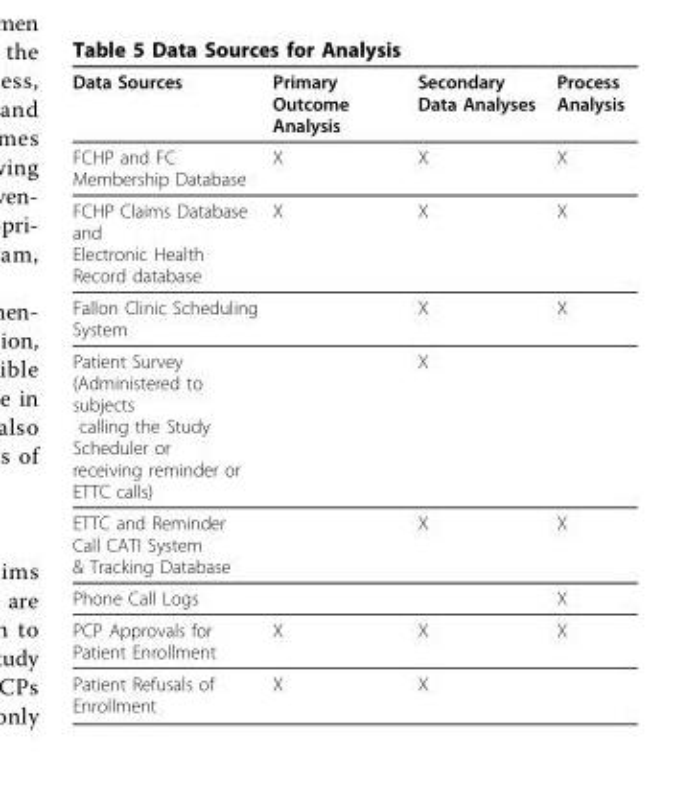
<table><thead><tr><td>Data Sources</td><td>Primary Outcome Analysis</td><td>Secondary Data Analyses</td><td>Process Analysis</td></tr></thead><tbody><tr><td>FCHP and FC Membership Database</td><td>X</td><td>X</td><td>X</td></tr><tr><td>FCHP Claims Database and Electronic Health Record database</td><td>X</td><td>X</td><td>X</td></tr><tr><td>Fallon Clinic Scheduling System</td><td></td><td>X</td><td>X</td></tr><tr><td>Patient Survey (Administered to subjects calling the Study Scheduler or receiving reminder or ETTC calls)</td><td></td><td>X</td><td></td></tr><tr><td>ETTC and Reminder Call CATI System &amp; Tracking Database</td><td></td><td>X</td><td>X</td></tr><tr><td>Phone Call Logs</td><td></td><td></td><td>X</td></tr><tr><td>PCP Approvals for Patient Enrollment</td><td>X</td><td>X</td><td>X</td></tr><tr><td>Patient Refusals of Enrollment</td><td>X</td><td>X</td><td></td></tr></tbody></table>